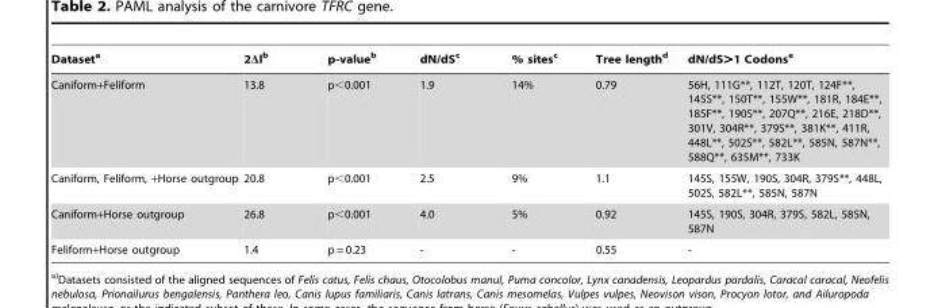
<table><thead><tr><td>Dataset<sup>a</sup></td><td>2Δl<sup>b</sup></td><td>p-value<sup>b</sup></td><td>dN/dS<sup>c</sup></td><td>% sites<sup>c</sup></td><td>Tree length<sup>d</sup></td><td>dN/dS&gt;1 Codons<sup>e</sup></td></tr></thead><tbody><tr><td>Caniform+Feliform</td><td>13.8</td><td>p&lt;0.001</td><td>1.9</td><td>14%</td><td>0.79</td><td>56H, 111G**, 112T, 120T, 124F**, 145S**, 150T**, 155W**, 181R, 184E**, 185F**, 190S**, 207Q**, 216E, 218D**, 301V, 304R**, 379S**, 381K**, 411R, 448L**, 502S**, 582L**, 585N, 587N**, 588Q**, 635M**, 733K</td></tr><tr><td>Caniform, Feliform, +Horse outgroup</td><td>20.8</td><td>p&lt;0.001</td><td>2.5</td><td>9%</td><td>1.1</td><td>145S, 155W, 190S, 304R, 379S**, 448L, 502S, 582L**, 585N, 587N</td></tr><tr><td>Caniform+Horse outgroup</td><td>26.8</td><td>p&lt;0.001</td><td>4.0</td><td>5%</td><td>0.92</td><td>145S, 190S, 304R, 379S, 582L, 585N, 587N</td></tr><tr><td>Feliform+Horse outgroup</td><td>1.4</td><td>p = 0.23</td><td>-</td><td>-</td><td>0.55</td><td>-</td></tr></tbody></table>